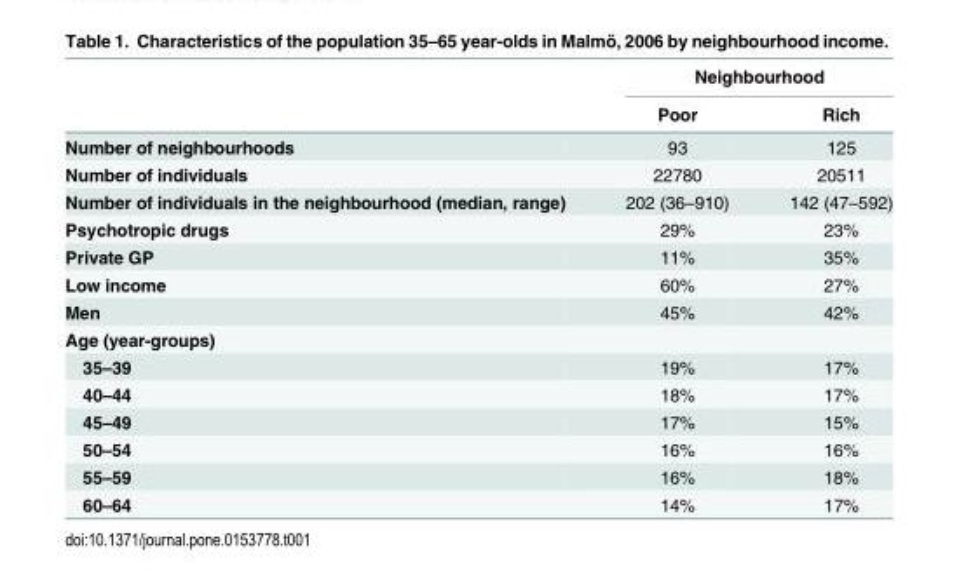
<table><thead><tr><td rowspan="2"></td><td colspan="2">Neighbourhood</td></tr><tr><td>Poor</td><td>Rich</td></tr></thead><tbody><tr><td>Number of neighbourhoods</td><td>93</td><td>125</td></tr><tr><td>Number of individuals</td><td>22780</td><td>20511</td></tr><tr><td>Number of individuals in the neighbourhood (median, range)</td><td>202 (36–910)</td><td>142 (47–592)</td></tr><tr><td>Psychotropic drugs</td><td>29%</td><td>23%</td></tr><tr><td>Private GP</td><td>11%</td><td>35%</td></tr><tr><td>Low income</td><td>60%</td><td>27%</td></tr><tr><td>Men</td><td>45%</td><td>42%</td></tr><tr><td colspan="3">Age (year-groups)</td></tr><tr><td>35–39</td><td>19%</td><td>17%</td></tr><tr><td>40–44</td><td>18%</td><td>17%</td></tr><tr><td>45–49</td><td>17%</td><td>15%</td></tr><tr><td>50–54</td><td>16%</td><td>16%</td></tr><tr><td>55–59</td><td>16%</td><td>18%</td></tr><tr><td>60–64</td><td>14%</td><td>17%</td></tr></tbody></table>